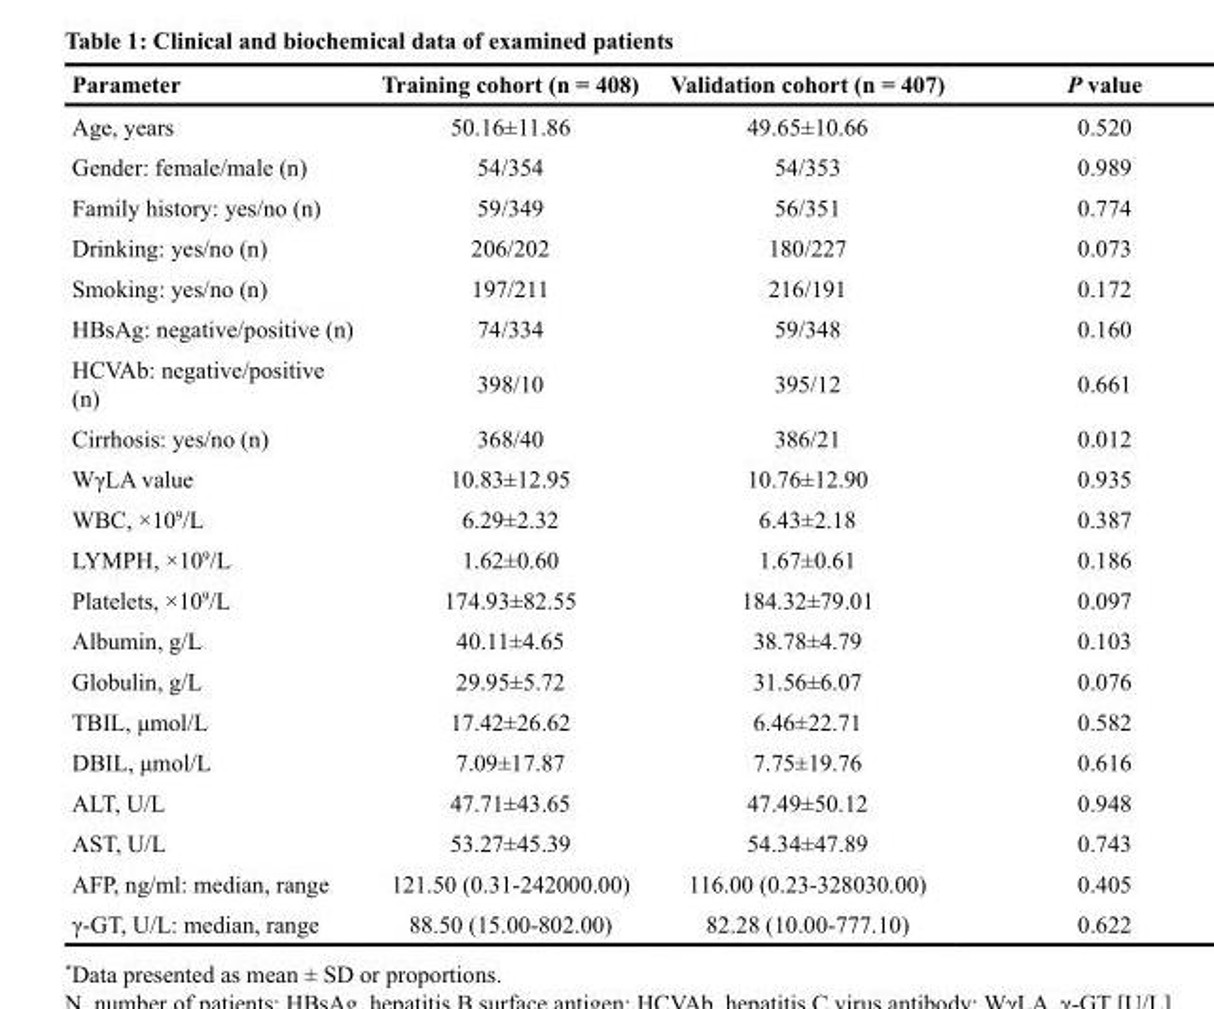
<table><thead><tr><td>Parameter</td><td>Training cohort (n = 408)</td><td>Validation cohort (n = 407)</td><td>P value</td></tr></thead><tbody><tr><td>Age, years</td><td>50.16±11.86</td><td>49.65±10.66</td><td>0.520</td></tr><tr><td>Gender: female/male (n)</td><td>54/354</td><td>54/353</td><td>0.989</td></tr><tr><td>Family history: yes/no (n)</td><td>59/349</td><td>56/351</td><td>0.774</td></tr><tr><td>Drinking: yes/no (n)</td><td>206/202</td><td>180/227</td><td>0.073</td></tr><tr><td>Smoking: yes/no (n)</td><td>197/211</td><td>216/191</td><td>0.172</td></tr><tr><td>HBsAg: negative/positive (n)</td><td>74/334</td><td>59/348</td><td>0.160</td></tr><tr><td>HCVAb: negative/positive (n)</td><td>398/10</td><td>395/12</td><td>0.661</td></tr><tr><td>Cirrhosis: yes/no (n)</td><td>368/40</td><td>386/21</td><td>0.012</td></tr><tr><td>WγLA value</td><td>10.83±12.95</td><td>10.76±12.90</td><td>0.935</td></tr><tr><td>WBC, ×10<sup>9</sup>/L</td><td>6.29±2.32</td><td>6.43±2.18</td><td>0.387</td></tr><tr><td>LYMPH, ×10<sup>9</sup>/L</td><td>1.62±0.60</td><td>1.67±0.61</td><td>0.186</td></tr><tr><td>Platelets, ×10<sup>9</sup>/L</td><td>174.93±82.55</td><td>184.32±79.01</td><td>0.097</td></tr><tr><td>Albumin, g/L</td><td>40.11±4.65</td><td>38.78±4.79</td><td>0.103</td></tr><tr><td>Globulin, g/L</td><td>29.95±5.72</td><td>31.56±6.07</td><td>0.076</td></tr><tr><td>TBIL, μmol/L</td><td>17.42±26.62</td><td>6.46±22.71</td><td>0.582</td></tr><tr><td>DBIL, μmol/L</td><td>7.09±17.87</td><td>7.75±19.76</td><td>0.616</td></tr><tr><td>ALT, U/L</td><td>47.71±43.65</td><td>47.49±50.12</td><td>0.948</td></tr><tr><td>AST, U/L</td><td>53.27±45.39</td><td>54.34±47.89</td><td>0.743</td></tr><tr><td>AFP, ng/ml: median, range</td><td>121.50 (0.31-242000.00)</td><td>116.00 (0.23-328030.00)</td><td>0.405</td></tr><tr><td>γ-GT, U/L: median, range</td><td>88.50 (15.00-802.00)</td><td>82.28 (10.00-777.10)</td><td>0.622</td></tr></tbody></table>